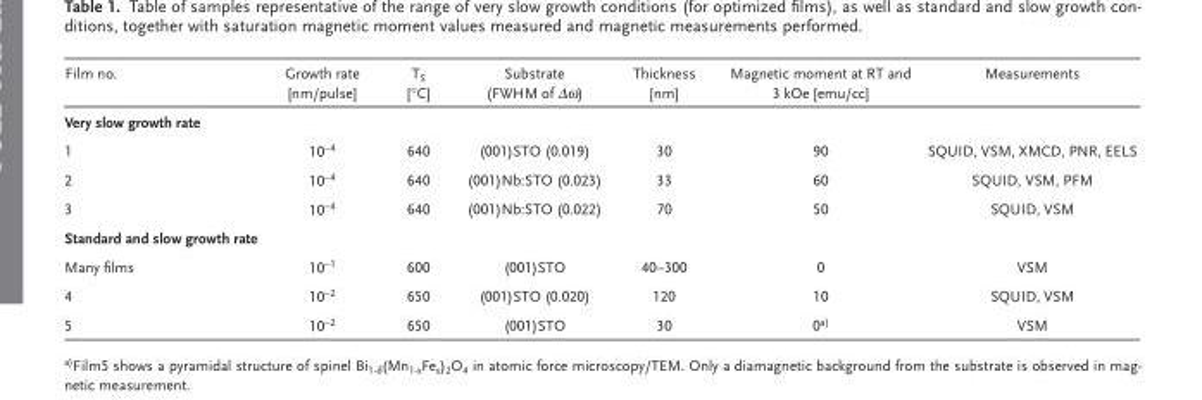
<table><thead><tr><td>Film no.</td><td>Growth rate [nm/pulse]</td><td>T <sub>S</sub> [°C]</td><td>Substrate (FWHM of Δω )</td><td>Thickness [nm]</td><td>Magnetic moment at RT and 3 kOe [emu/cc]</td><td>Measurements</td></tr></thead><tbody><tr><td colspan="7">Very slow growth rate</td></tr><tr><td>1</td><td>10 <sup>−4</sup></td><td>640</td><td>(001)STO (0.019)</td><td>30</td><td>90</td><td>SQUID, VSM, XMCD, PNR, EELS</td></tr><tr><td>2</td><td>10 <sup>−4</sup></td><td>640</td><td>(001)Nb:STO (0.023)</td><td>33</td><td>60</td><td>SQUID, VSM, PFM</td></tr><tr><td>3</td><td>10 <sup>−4</sup></td><td>640</td><td>(001)Nb:STO (0.022)</td><td>70</td><td>50</td><td>SQUID, VSM</td></tr><tr><td colspan="7">Standard and slow growth rate</td></tr><tr><td>Many fi lms</td><td>10 <sup>−1</sup></td><td>600</td><td>(001)STO</td><td>40–300</td><td>0</td><td>VSM</td></tr><tr><td>4</td><td>10 <sup>−2</sup></td><td>650</td><td>(001)STO (0.020)</td><td>120</td><td>10</td><td>SQUID, VSM</td></tr><tr><td>5</td><td>10 <sup>−2</sup></td><td>650</td><td>(001)STO</td><td>30</td><td>0 a)</td><td>VSM</td></tr></tbody></table>